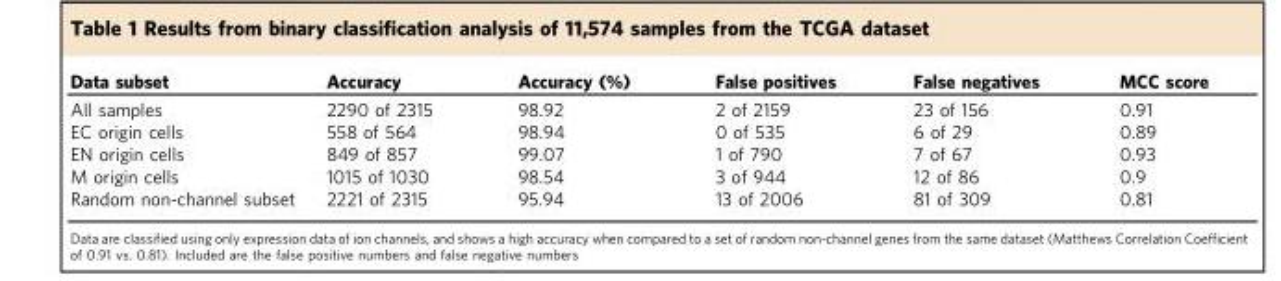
<table><thead><tr><td>Data subset</td><td>Accuracy</td><td>Accuracy (%)</td><td>False positives</td><td>False negatives</td><td>MCC score</td></tr></thead><tbody><tr><td>All samples</td><td>2290 of 2315</td><td>98.92</td><td>2 of 2159</td><td>23 of 156</td><td>0.91</td></tr><tr><td>EC origin cells</td><td>558 of 564</td><td>98.94</td><td>0 of 535</td><td>6 of 29</td><td>0.89</td></tr><tr><td>EN origin cells</td><td>849 of 857</td><td>99.07</td><td>1 of 790</td><td>7 of 67</td><td>0.93</td></tr><tr><td>M origin cells</td><td>1015 of 1030</td><td>98.54</td><td>3 of 944</td><td>12 of 86</td><td>0.9</td></tr><tr><td>Random non-channel subset</td><td>2221 of 2315</td><td>95.94</td><td>13 of 2006</td><td>81 of 309</td><td>0.81</td></tr></tbody></table>